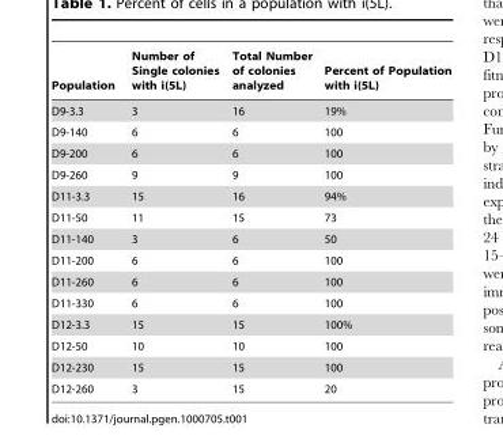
<table><thead><tr><td>Population</td><td>Number of Single colonies with i(5L)</td><td>Total Number of colonies analyzed</td><td>Percent of Population with i(5L)</td></tr></thead><tbody><tr><td>D9-3.3</td><td>3</td><td>16</td><td>19%</td></tr><tr><td>D9-140</td><td>6</td><td>6</td><td>100</td></tr><tr><td>D9-200</td><td>6</td><td>6</td><td>100</td></tr><tr><td>D9-260</td><td>9</td><td>9</td><td>100</td></tr><tr><td>D11-3.3</td><td>15</td><td>16</td><td>94%</td></tr><tr><td>D11-50</td><td>11</td><td>15</td><td>73</td></tr><tr><td>D11-140</td><td>3</td><td>6</td><td>50</td></tr><tr><td>D11-200</td><td>6</td><td>6</td><td>100</td></tr><tr><td>D11-260</td><td>6</td><td>6</td><td>100</td></tr><tr><td>D11-330</td><td>6</td><td>6</td><td>100</td></tr><tr><td>D12-3.3</td><td>15</td><td>15</td><td>100%</td></tr><tr><td>D12-50</td><td>10</td><td>10</td><td>100</td></tr><tr><td>D12-230</td><td>15</td><td>15</td><td>100</td></tr><tr><td>D12-260</td><td>3</td><td>15</td><td>20</td></tr></tbody></table>